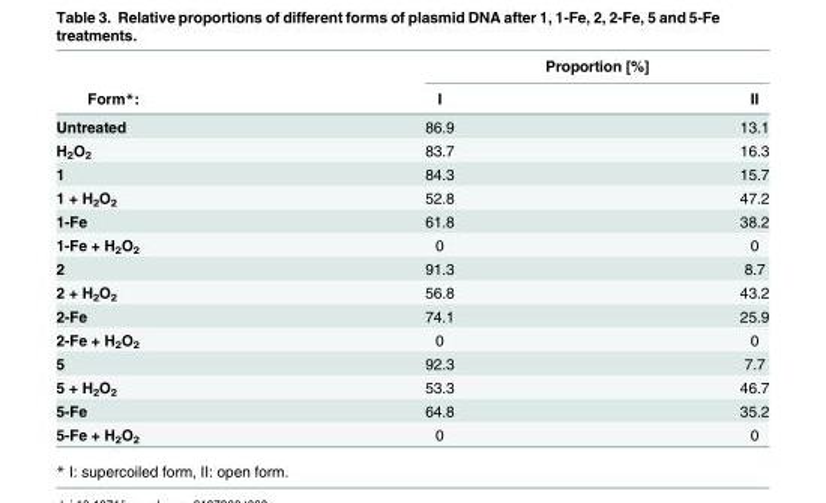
<table><thead><tr><td rowspan="2">Form*:</td><td colspan="2">Proportion [%]</td></tr><tr><td>I</td><td>II</td></tr></thead><tbody><tr><td>Untreated</td><td>86.9</td><td>13.1</td></tr><tr><td>H<sub>2</sub>O<sub>2</sub></td><td>83.7</td><td>16.3</td></tr><tr><td>1</td><td>84.3</td><td>15.7</td></tr><tr><td>1 + H<sub>2</sub>O<sub>2</sub></td><td>52.8</td><td>47.2</td></tr><tr><td>1-Fe</td><td>61.8</td><td>38.2</td></tr><tr><td>1-Fe + H<sub>2</sub>O<sub>2</sub></td><td>0</td><td>0</td></tr><tr><td>2</td><td>91.3</td><td>8.7</td></tr><tr><td>2 + H<sub>2</sub>O<sub>2</sub></td><td>56.8</td><td>43.2</td></tr><tr><td>2-Fe</td><td>74.1</td><td>25.9</td></tr><tr><td>2-Fe + H<sub>2</sub>O<sub>2</sub></td><td>0</td><td>0</td></tr><tr><td>5</td><td>92.3</td><td>7.7</td></tr><tr><td>5 + H<sub>2</sub>O<sub>2</sub></td><td>53.3</td><td>46.7</td></tr><tr><td>5-Fe</td><td>64.8</td><td>35.2</td></tr><tr><td>5-Fe + H<sub>2</sub>O<sub>2</sub></td><td>0</td><td>0</td></tr></tbody></table>